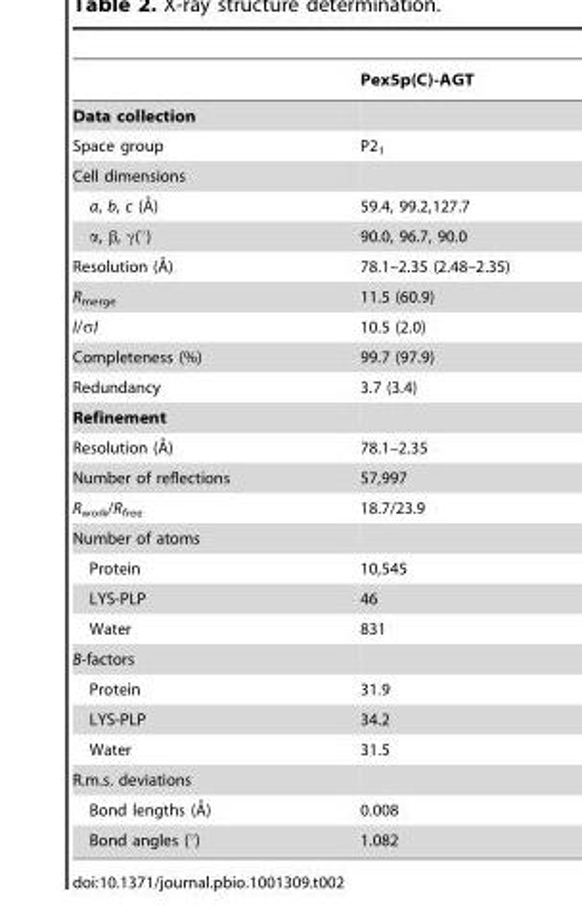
<table><thead><tr><td></td><td>Pex5p(C)-AGT</td></tr></thead><tbody><tr><td colspan="2">Data collection</td></tr><tr><td>Space group</td><td>P2<sub>1</sub></td></tr><tr><td colspan="2">Cell dimensions</td></tr><tr><td>a, b, c (A˚)</td><td>59.4, 99.2,127.7</td></tr><tr><td>α, β, γ(°)</td><td>90.0, 96.7, 90.0</td></tr><tr><td>Resolution (A˚)</td><td>78.1–2.35 (2.48–2.35)</td></tr><tr><td>R<sub>merge</sub></td><td>11.5 (60.9)</td></tr><tr><td>I/σI</td><td>10.5 (2.0)</td></tr><tr><td>Completeness (%)</td><td>99.7 (97.9)</td></tr><tr><td>Redundancy</td><td>3.7 (3.4)</td></tr><tr><td colspan="2">Refinement</td></tr><tr><td>Resolution (A˚)</td><td>78.1–2.35</td></tr><tr><td>Number of reflections</td><td>57,997</td></tr><tr><td>R<sub>work</sub>/R<sub>free</sub></td><td>18.7/23.9</td></tr><tr><td colspan="2">Number of atoms</td></tr><tr><td>Protein</td><td>10,545</td></tr><tr><td>LYS-PLP</td><td>46</td></tr><tr><td>Water</td><td>831</td></tr><tr><td colspan="2">B-factors</td></tr><tr><td>Protein</td><td>31.9</td></tr><tr><td>LYS-PLP</td><td>34.2</td></tr><tr><td>Water</td><td>31.5</td></tr><tr><td colspan="2">R.m.s. deviations</td></tr><tr><td>Bond lengths (A˚)</td><td>0.008</td></tr><tr><td>Bond angles (°)</td><td>1.082</td></tr></tbody></table>